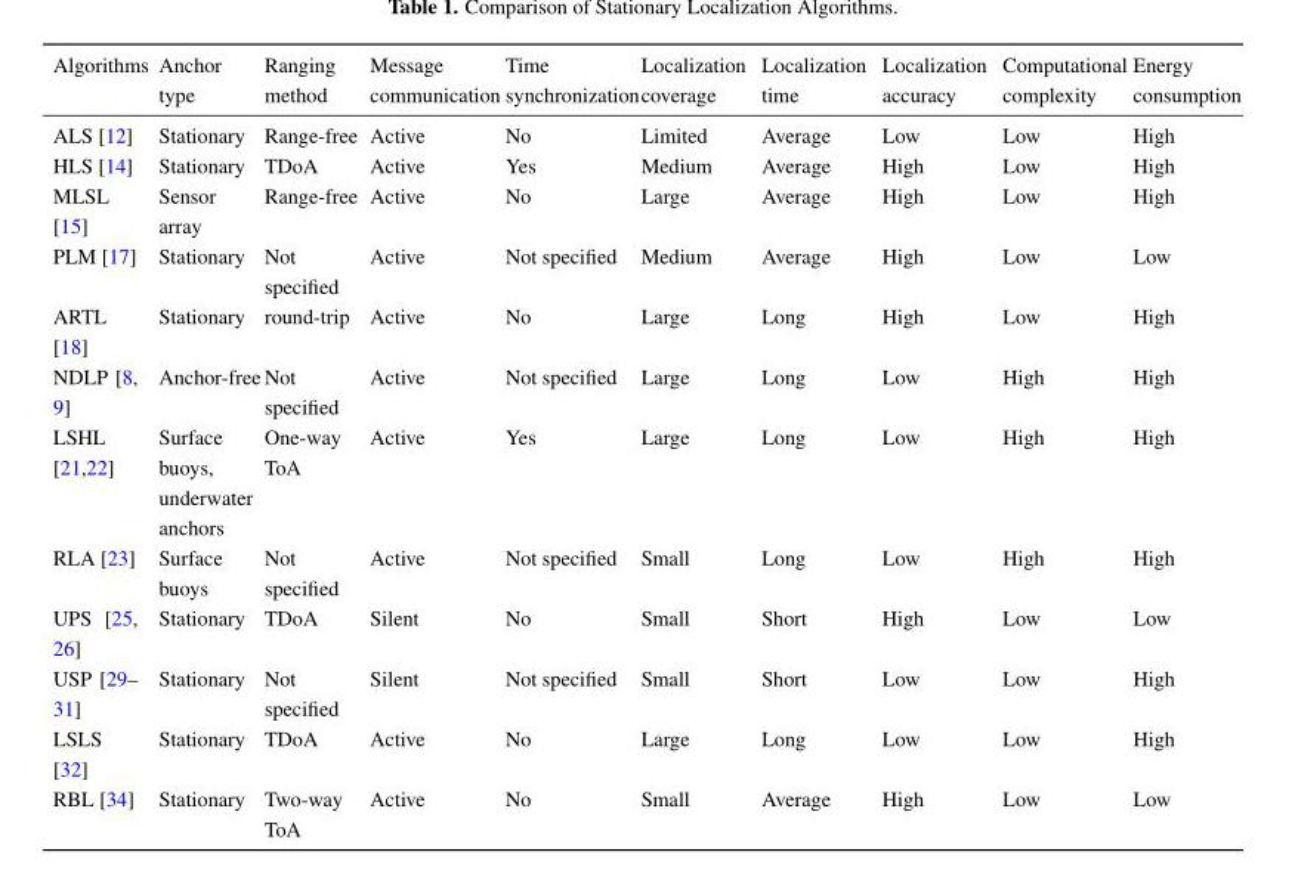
<table><thead><tr><td>Algorithms</td><td>Anchor type</td><td>Ranging method</td><td>Message communication</td><td>Time synchronization</td><td>Localization coverage</td><td>Localization time</td><td>Localization accuracy</td><td>Computational complexity</td><td>Energy consumption</td></tr></thead><tbody><tr><td>ALS [12]</td><td>Stationary</td><td>Range-free</td><td>Active</td><td>No</td><td>Limited</td><td>Average</td><td>Low</td><td>Low</td><td>High</td></tr><tr><td>HLS [14]</td><td>Stationary</td><td>TDoA</td><td>Active</td><td>Yes</td><td>Medium</td><td>Average</td><td>High</td><td>Low</td><td>High</td></tr><tr><td>MLSL [15]</td><td>Sensor array</td><td>Range-free</td><td>Active</td><td>No</td><td>Large</td><td>Average</td><td>High</td><td>Low</td><td>High</td></tr><tr><td>PLM [17]</td><td>Stationary</td><td>Not specified</td><td>Active</td><td>Not specified</td><td>Medium</td><td>Average</td><td>High</td><td>Low</td><td>Low</td></tr><tr><td>ARTL [18]</td><td>Stationary</td><td>round-trip</td><td>Active</td><td>No</td><td>Large</td><td>Long</td><td>High</td><td>Low</td><td>High</td></tr><tr><td>NDLP [8, 9]</td><td>Anchor-free</td><td>Not specified</td><td>Active</td><td>Not specified</td><td>Large</td><td>Long</td><td>Low</td><td>High</td><td>High</td></tr><tr><td>LSHL [21,22]</td><td>Surface buoys, underwater anchors</td><td>One-way ToA</td><td>Active</td><td>Yes</td><td>Large</td><td>Long</td><td>Low</td><td>High</td><td>High</td></tr><tr><td>RLA [23]</td><td>Surface buoys</td><td>Not specified</td><td>Active</td><td>Not specified</td><td>Small</td><td>Long</td><td>Low</td><td>High</td><td>High</td></tr><tr><td>UPS [25, 26]</td><td>Stationary</td><td>TDoA</td><td>Silent</td><td>No</td><td>Small</td><td>Short</td><td>High</td><td>Low</td><td>Low</td></tr><tr><td>USP [29– 31]</td><td>Stationary</td><td>Not specified</td><td>Silent</td><td>Not specified</td><td>Small</td><td>Short</td><td>Low</td><td>Low</td><td>High</td></tr><tr><td>LSLS [32]</td><td>Stationary</td><td>TDoA</td><td>Active</td><td>No</td><td>Large</td><td>Long</td><td>Low</td><td>Low</td><td>High</td></tr><tr><td>RBL [34]</td><td>Stationary</td><td>Two-way ToA</td><td>Active</td><td>No</td><td>Small</td><td>Average</td><td>High</td><td>Low</td><td>Low</td></tr></tbody></table>